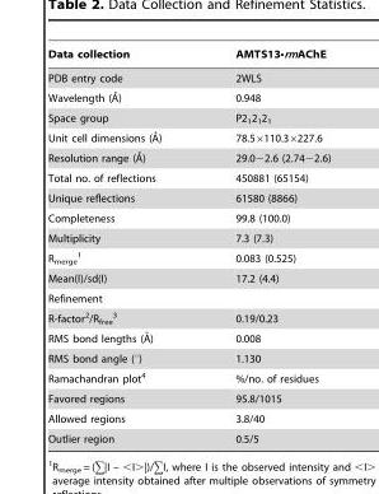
<table><thead><tr><td>Data collection</td><td>AMTS13•rmAChE</td></tr></thead><tbody><tr><td>PDB entry code</td><td>2WLS</td></tr><tr><td>Wavelength (A˚)</td><td>0.948</td></tr><tr><td>Space group</td><td>P2<sub>1</sub>2<sub>1</sub>2<sub>1</sub></td></tr><tr><td>Unit cell dimensions (A˚)</td><td>78.5×110.3×227.6</td></tr><tr><td>Resolution range (A˚)</td><td>29.0−2.6 (2.74−2.6)</td></tr><tr><td>Total no. of reflections</td><td>450881 (65154)</td></tr><tr><td>Unique reflections</td><td>61580 (8866)</td></tr><tr><td>Completeness</td><td>99.8 (100.0)</td></tr><tr><td>Multiplicity</td><td>7.3 (7.3)</td></tr><tr><td>R<sub>merge</sub> 1</td><td>0.083 (0.525)</td></tr><tr><td>Mean(I)/sd(I)</td><td>17.2 (4.4)</td></tr><tr><td colspan="2">Refinement</td></tr><tr><td>R-factor<sup>2</sup>/R<sub>free</sub> 3</td><td>0.19/0.23</td></tr><tr><td>RMS bond lengths (A˚)</td><td>0.008</td></tr><tr><td>RMS bond angle (°)</td><td>1.130</td></tr><tr><td>Ramachandran plot<sup>4</sup></td><td>%/no. of residues</td></tr><tr><td>Favored regions</td><td>95.8/1015</td></tr><tr><td>Allowed regions</td><td>3.8/40</td></tr><tr><td>Outlier region</td><td>0.5/5</td></tr></tbody></table>